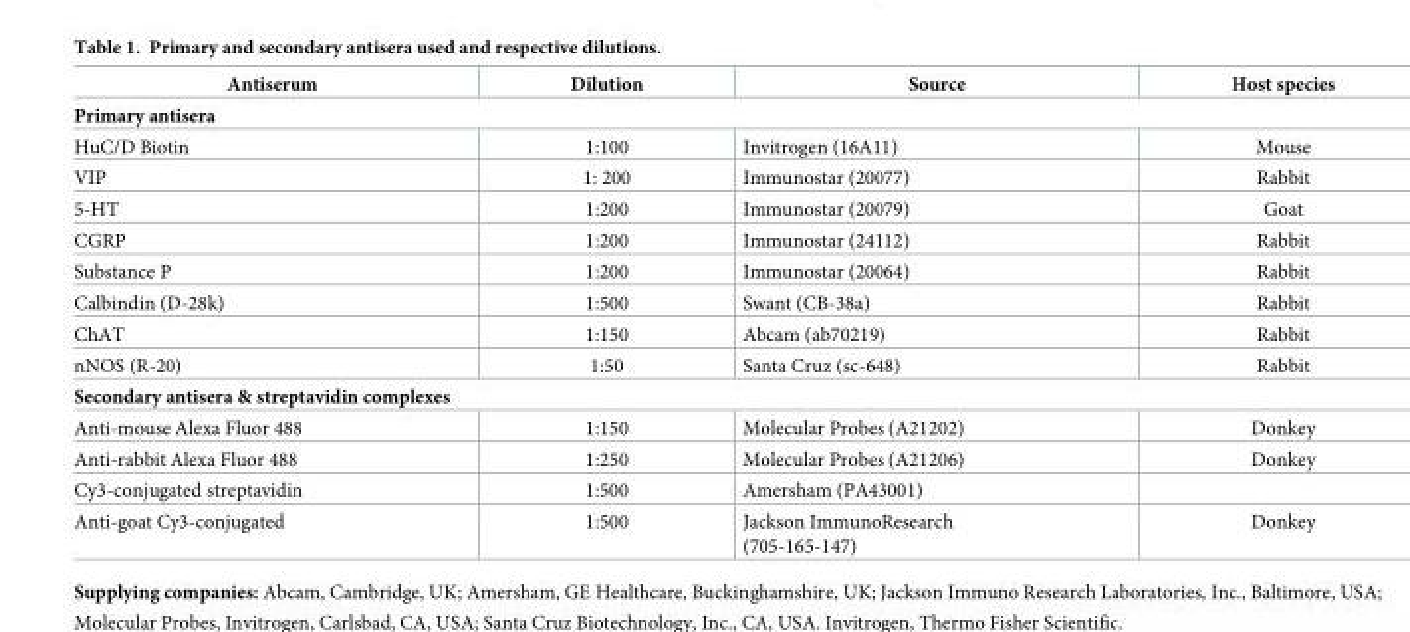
<table><thead><tr><td>Antiserum</td><td>Dilution</td><td>Source</td><td>Host species</td></tr></thead><tbody><tr><td colspan="4">Primary antisera</td></tr><tr><td>HuC/D Biotin</td><td>1:100</td><td>Invitrogen (16A11)</td><td>Mouse</td></tr><tr><td>VIP</td><td>1: 200</td><td>Immunostar (20077)</td><td>Rabbit</td></tr><tr><td>5-HT</td><td>1:200</td><td>Immunostar (20079)</td><td>Goat</td></tr><tr><td>CGRP</td><td>1:200</td><td>Immunostar (24112)</td><td>Rabbit</td></tr><tr><td>Substance P</td><td>1:200</td><td>Immunostar (20064)</td><td>Rabbit</td></tr><tr><td>Calbindin (D-28k)</td><td>1:500</td><td>Swant (CB-38a)</td><td>Rabbit</td></tr><tr><td>ChAT</td><td>1:150</td><td>Abcam (ab70219)</td><td>Rabbit</td></tr><tr><td>nNOS (R-20)</td><td>1:50</td><td>Santa Cruz (sc-648)</td><td>Rabbit</td></tr><tr><td colspan="4">Secondary antisera &amp; streptavidin complexes</td></tr><tr><td>Anti-mouse Alexa Fluor 488</td><td>1:150</td><td>Molecular Probes (A21202)</td><td>Donkey</td></tr><tr><td>Anti-rabbit Alexa Fluor 488</td><td>1:250</td><td>Molecular Probes (A21206)</td><td>Donkey</td></tr><tr><td>Cy3-conjugated streptavidin</td><td>1:500</td><td>Amersham (PA43001)</td><td></td></tr><tr><td>Anti-goat Cy3-conjugated</td><td>1:500</td><td>Jackson ImmunoResearch (705-165-147)</td><td>Donkey</td></tr></tbody></table>